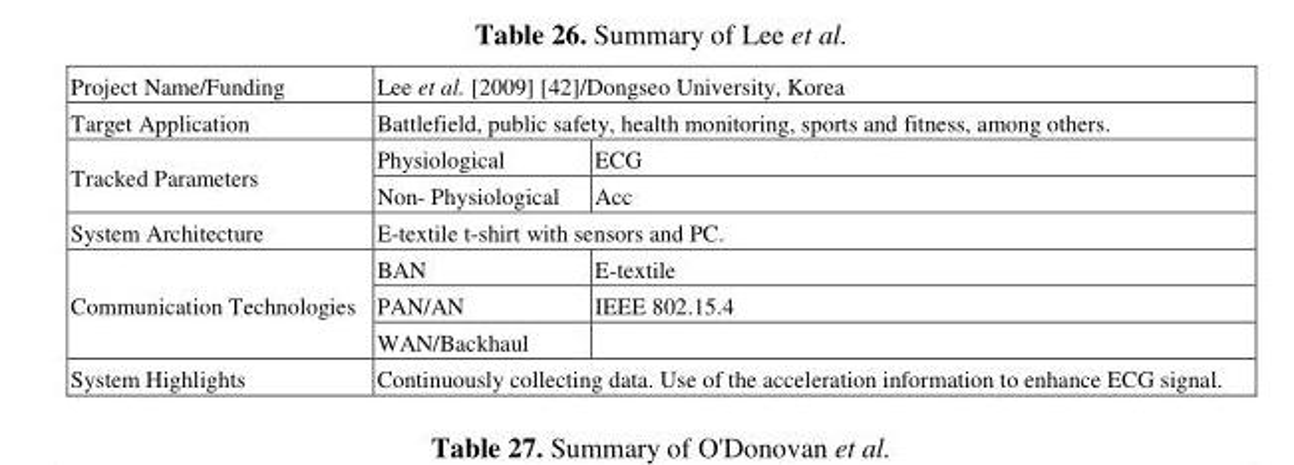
<table><tbody><tr><td>Project Name/Funding</td><td colspan="2">Lee et al. [2009] [42]/Dongseo University, Korea</td></tr><tr><td>Target Application</td><td colspan="2">Battlefield, public safety, health monitoring, sports and fitness, among others.</td></tr><tr><td rowspan="2">Tracked Parameters</td><td>Physiological</td><td>ECG</td></tr><tr><td>Non- Physiological</td><td>Acc</td></tr><tr><td>System Architecture</td><td colspan="2">E-textile t-shirt with sensors and PC.</td></tr><tr><td rowspan="3">Communication Technologies</td><td>BAN</td><td>E-textile</td></tr><tr><td>PAN/AN</td><td>IEEE 802.15.4</td></tr><tr><td>WAN/Backhaul</td><td></td></tr><tr><td>System Highlights</td><td colspan="2">Continuously collecting data. Use of the acceleration information to enhance ECG signal.</td></tr></tbody></table>